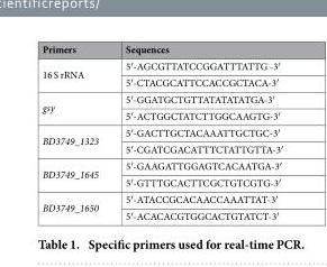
<table><thead><tr><td>Primers</td><td>Sequences</td></tr></thead><tbody><tr><td rowspan="2">16 S rRNA</td><td>5′ -AGCGTTATCCGGATTTATTG -3′</td></tr><tr><td>5′ -CTACGCATTCCACCGCTACA-3′</td></tr><tr><td rowspan="2">gsy</td><td>5′ -GGATGCTGTTATATATATGA-3′</td></tr><tr><td>5′ -ACTGGCTATCTTGGCAAGTG-3′</td></tr><tr><td rowspan="2">BD3749_1323</td><td>5′ -GACTTGCTACAAATTGCTGC-3′</td></tr><tr><td>5′ -CGATCGACATTTCTATTGTTA-3′</td></tr><tr><td rowspan="2">BD3749_1645</td><td>5′ -GAAGATTGGAGTCACAATGA-3′</td></tr><tr><td>5′ -GTTTGCACTTCGCTGTCGTG-3′</td></tr><tr><td rowspan="2">BD3749_1650</td><td>5′ -ATACCGCACAACCAAATTAT-3′</td></tr><tr><td>5′ -ACACACGTGGCACTGTATCT-3′</td></tr></tbody></table>